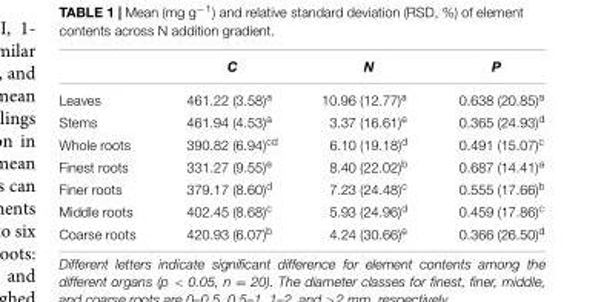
<table><thead><tr><td></td><td>C</td><td>N</td><td>P</td></tr></thead><tbody><tr><td>Leaves</td><td>461.22 (3.58)<sup>a</sup></td><td>10.96 (12.77)<sup>a</sup></td><td>0.638 (20.85)<sup>a</sup></td></tr><tr><td>Stems</td><td>461.94 (4.53)<sup>a</sup></td><td>3.37 (16.61)<sup>e</sup></td><td>0.365 (24.93)<sup>d</sup></td></tr><tr><td>Whole roots</td><td>390.82 (6.94)<sup>cd</sup></td><td>6.10 (19.18)<sup>d</sup></td><td>0.491 (15.07)<sup>c</sup></td></tr><tr><td>Finest roots</td><td>331.27 (9.55)<sup>e</sup></td><td>8.40 (22.02)<sup>b</sup></td><td>0.687 (14.41)<sup>a</sup></td></tr><tr><td>Finer roots</td><td>379.17 (8.60)<sup>d</sup></td><td>7.23 (24.48)<sup>c</sup></td><td>0.555 (17.66)<sup>b</sup></td></tr><tr><td>Middle roots</td><td>402.45 (8.68)<sup>c</sup></td><td>5.93 (24.96)<sup>d</sup></td><td>0.459 (17.86)<sup>c</sup></td></tr><tr><td>Coarse roots</td><td>420.93 (6.07)<sup>b</sup></td><td>4.24 (30.66)<sup>e</sup></td><td>0.366 (26.50)<sup>d</sup></td></tr></tbody></table>